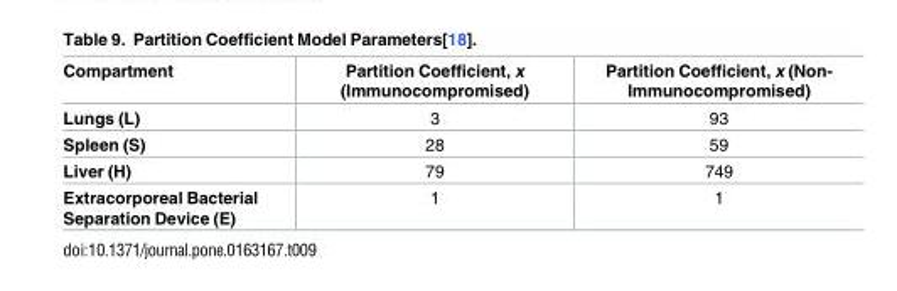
<table><thead><tr><td>Compartment</td><td>Partition Coefficient, x (Immunocompromised)</td><td>Partition Coefficient, x (Non- Immunocompromised)</td></tr></thead><tbody><tr><td>Lungs (L)</td><td>3</td><td>93</td></tr><tr><td>Spleen (S)</td><td>28</td><td>59</td></tr><tr><td>Liver (H)</td><td>79</td><td>749</td></tr><tr><td>Extracorporeal Bacterial Separation Device (E)</td><td>1</td><td>1</td></tr></tbody></table>